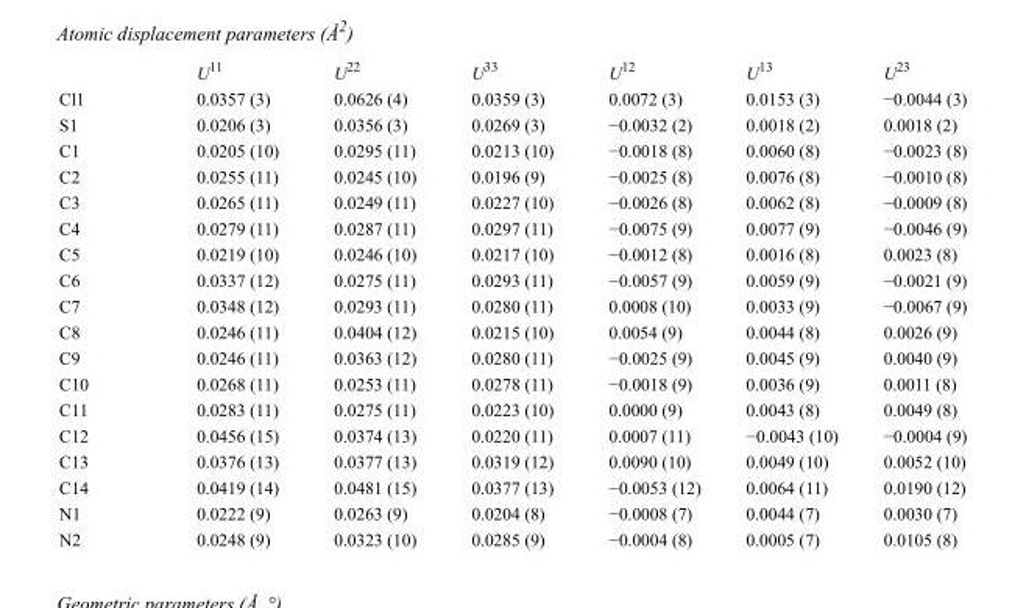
<table><thead><tr><td></td><td>U<sup>11</sup></td><td>U<sup>22</sup></td><td>U<sup>33</sup></td><td>U<sup>12</sup></td><td>U<sup>13</sup></td><td>U<sup>23</sup></td></tr></thead><tbody><tr><td>Cl1</td><td>0.0357 (3)</td><td>0.0626 (4)</td><td>0.0359 (3)</td><td>0.0072 (3)</td><td>0.0153 (3)</td><td>−0.0044 (3)</td></tr><tr><td>S1</td><td>0.0206 (3)</td><td>0.0356 (3)</td><td>0.0269 (3)</td><td>−0.0032 (2)</td><td>0.0018 (2)</td><td>0.0018 (2)</td></tr><tr><td>C1</td><td>0.0205 (10)</td><td>0.0295 (11)</td><td>0.0213 (10)</td><td>−0.0018 (8)</td><td>0.0060 (8)</td><td>−0.0023 (8)</td></tr><tr><td>C2</td><td>0.0255 (11)</td><td>0.0245 (10)</td><td>0.0196 (9)</td><td>−0.0025 (8)</td><td>0.0076 (8)</td><td>−0.0010 (8)</td></tr><tr><td>C3</td><td>0.0265 (11)</td><td>0.0249 (11)</td><td>0.0227 (10)</td><td>−0.0026 (8)</td><td>0.0062 (8)</td><td>−0.0009 (8)</td></tr><tr><td>C4</td><td>0.0279 (11)</td><td>0.0287 (11)</td><td>0.0297 (11)</td><td>−0.0075 (9)</td><td>0.0077 (9)</td><td>−0.0046 (9)</td></tr><tr><td>C5</td><td>0.0219 (10)</td><td>0.0246 (10)</td><td>0.0217 (10)</td><td>−0.0012 (8)</td><td>0.0016 (8)</td><td>0.0023 (8)</td></tr><tr><td>C6</td><td>0.0337 (12)</td><td>0.0275 (11)</td><td>0.0293 (11)</td><td>−0.0057 (9)</td><td>0.0059 (9)</td><td>−0.0021 (9)</td></tr><tr><td>C7</td><td>0.0348 (12)</td><td>0.0293 (11)</td><td>0.0280 (11)</td><td>0.0008 (10)</td><td>0.0033 (9)</td><td>−0.0067 (9)</td></tr><tr><td>C8</td><td>0.0246 (11)</td><td>0.0404 (12)</td><td>0.0215 (10)</td><td>0.0054 (9)</td><td>0.0044 (8)</td><td>0.0026 (9)</td></tr><tr><td>C9</td><td>0.0246 (11)</td><td>0.0363 (12)</td><td>0.0280 (11)</td><td>−0.0025 (9)</td><td>0.0045 (9)</td><td>0.0040 (9)</td></tr><tr><td>C10</td><td>0.0268 (11)</td><td>0.0253 (11)</td><td>0.0278 (11)</td><td>−0.0018 (9)</td><td>0.0036 (9)</td><td>0.0011 (8)</td></tr><tr><td>C11</td><td>0.0283 (11)</td><td>0.0275 (11)</td><td>0.0223 (10)</td><td>0.0000 (9)</td><td>0.0043 (8)</td><td>0.0049 (8)</td></tr><tr><td>C12</td><td>0.0456 (15)</td><td>0.0374 (13)</td><td>0.0220 (11)</td><td>0.0007 (11)</td><td>−0.0043 (10)</td><td>−0.0004 (9)</td></tr><tr><td>C13</td><td>0.0376 (13)</td><td>0.0377 (13)</td><td>0.0319 (12)</td><td>0.0090 (10)</td><td>0.0049 (10)</td><td>0.0052 (10)</td></tr><tr><td>C14</td><td>0.0419 (14)</td><td>0.0481 (15)</td><td>0.0377 (13)</td><td>−0.0053 (12)</td><td>0.0064 (11)</td><td>0.0190 (12)</td></tr><tr><td>N1</td><td>0.0222 (9)</td><td>0.0263 (9)</td><td>0.0204 (8)</td><td>−0.0008 (7)</td><td>0.0044 (7)</td><td>0.0030 (7)</td></tr><tr><td>N2</td><td>0.0248 (9)</td><td>0.0323 (10)</td><td>0.0285 (9)</td><td>−0.0004 (8)</td><td>0.0005 (7)</td><td>0.0105 (8)</td></tr></tbody></table>